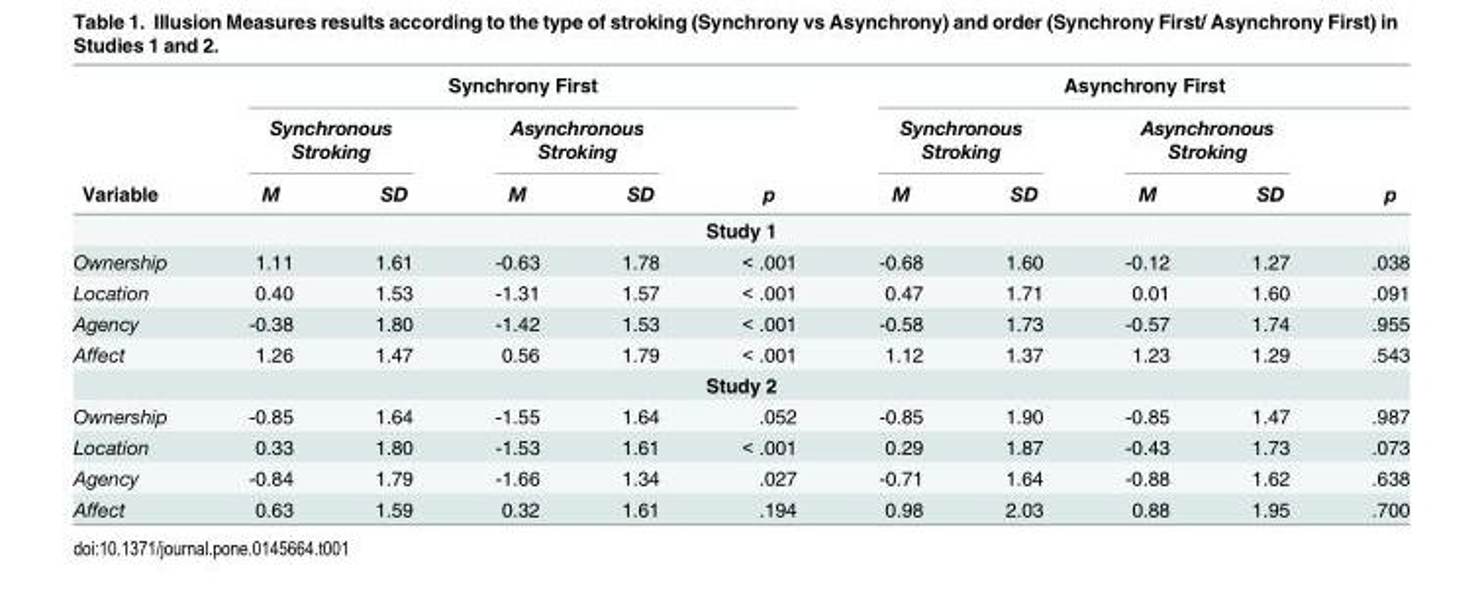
<table><thead><tr><td rowspan="3">Variable</td><td colspan="5">Synchrony First</td><td colspan="5">Asynchrony First</td></tr><tr><td colspan="2">Synchronous Stroking</td><td colspan="2">Asynchronous Stroking</td><td rowspan="2">p</td><td colspan="2">Synchronous Stroking</td><td colspan="2">Asynchronous Stroking</td><td rowspan="2">p</td></tr><tr><td>M</td><td>SD</td><td>M</td><td>SD</td><td>M</td><td>SD</td><td>M</td><td>SD</td></tr></thead><tbody><tr><td colspan="11">Study 1</td></tr><tr><td>Ownership</td><td>1.11</td><td>1.61</td><td>-0.63</td><td>1.78</td><td>&lt; .001</td><td>-0.68</td><td>1.60</td><td>-0.12</td><td>1.27</td><td>.038</td></tr><tr><td>Location</td><td>0.40</td><td>1.53</td><td>-1.31</td><td>1.57</td><td>&lt; .001</td><td>0.47</td><td>1.71</td><td>0.01</td><td>1.60</td><td>.091</td></tr><tr><td>Agency</td><td>-0.38</td><td>1.80</td><td>-1.42</td><td>1.53</td><td>&lt; .001</td><td>-0.58</td><td>1.73</td><td>-0.57</td><td>1.74</td><td>.955</td></tr><tr><td>Affect</td><td>1.26</td><td>1.47</td><td>0.56</td><td>1.79</td><td>&lt; .001</td><td>1.12</td><td>1.37</td><td>1.23</td><td>1.29</td><td>.543</td></tr><tr><td colspan="11">Study 2</td></tr><tr><td>Ownership</td><td>-0.85</td><td>1.64</td><td>-1.55</td><td>1.64</td><td>.052</td><td>-0.85</td><td>1.90</td><td>-0.85</td><td>1.47</td><td>.987</td></tr><tr><td>Location</td><td>0.33</td><td>1.80</td><td>-1.53</td><td>1.61</td><td>&lt; .001</td><td>0.29</td><td>1.87</td><td>-0.43</td><td>1.73</td><td>.073</td></tr><tr><td>Agency</td><td>-0.84</td><td>1.79</td><td>-1.66</td><td>1.34</td><td>.027</td><td>-0.71</td><td>1.64</td><td>-0.88</td><td>1.62</td><td>.638</td></tr><tr><td>Affect</td><td>0.63</td><td>1.59</td><td>0.32</td><td>1.61</td><td>.194</td><td>0.98</td><td>2.03</td><td>0.88</td><td>1.95</td><td>.700</td></tr></tbody></table>